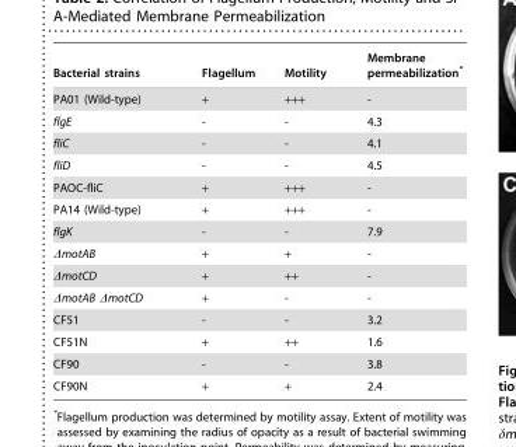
<table><thead><tr><td>Bacterial strains</td><td>Flagellum</td><td>Motility</td><td>Membrane permeabilization*</td></tr></thead><tbody><tr><td>PA01 (Wild-type)</td><td>+</td><td>+++</td><td>-</td></tr><tr><td>flgE</td><td>-</td><td>-</td><td>4.3</td></tr><tr><td>fliC</td><td>-</td><td>-</td><td>4.1</td></tr><tr><td>fliD</td><td>-</td><td>-</td><td>4.5</td></tr><tr><td>PAOC-fliC</td><td>+</td><td>+++</td><td>-</td></tr><tr><td>PA14 (Wild-type)</td><td>+</td><td>+++</td><td>-</td></tr><tr><td>flgK</td><td>-</td><td>-</td><td>7.9</td></tr><tr><td>ΔmotAB</td><td>+</td><td>+</td><td>-</td></tr><tr><td>ΔmotCD</td><td>+</td><td>++</td><td>-</td></tr><tr><td>ΔmotAB ΔmotCD</td><td>+</td><td>-</td><td>-</td></tr><tr><td>CF51</td><td>-</td><td>-</td><td>3.2</td></tr><tr><td>CF51N</td><td>+</td><td>++</td><td>1.6</td></tr><tr><td>CF90</td><td>-</td><td>-</td><td>3.8</td></tr><tr><td>CF90N</td><td>+</td><td>+</td><td>2.4</td></tr></tbody></table>